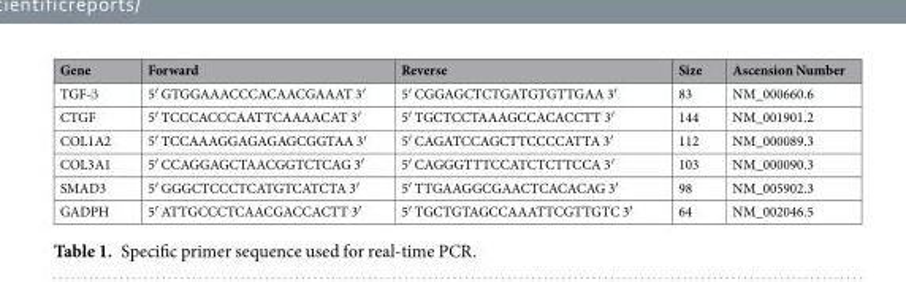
<table><thead><tr><td>Gene</td><td>Forward</td><td>Reverse</td><td>Size</td><td>Ascension Number</td></tr></thead><tbody><tr><td>TGF-β</td><td>5′ GTGGAAACCCACAACGAAAT 3′</td><td>5′ CGGAGCTCTGATGTGTTGAA 3′</td><td>83</td><td>NM_000660.6</td></tr><tr><td>CTGF</td><td>5′ TCCCACCCAATTCAAAACAT 3′</td><td>5′ TGCTCCTAAAGCCACACCTT 3′</td><td>144</td><td>NM_001901.2</td></tr><tr><td>COL1A2</td><td>5′ TCCAAAGGAGAGAGCGGTAA 3′</td><td>5′ CAGATCCAGCTTCCCCATTA 3′</td><td>112</td><td>NM_000089.3</td></tr><tr><td>COL3A1</td><td>5′ CCAGGAGCTAACGGTCTCAG 3′</td><td>5′ CAGGGTTTCCATCTCTTCCA 3′</td><td>103</td><td>NM_000090.3</td></tr><tr><td>SMAD3</td><td>5′ GGGCTCCCTCATGTCATCTA 3′</td><td>5′ TTGAAGGCGAACTCACACAG 3′</td><td>98</td><td>NM_005902.3</td></tr><tr><td>GADPH</td><td>5′ ATTGCCCTCAACGACCACTT 3′</td><td>5′ TGCTGTAGCCAAATTCGTTGTC 3′</td><td>64</td><td>NM_002046.5</td></tr></tbody></table>